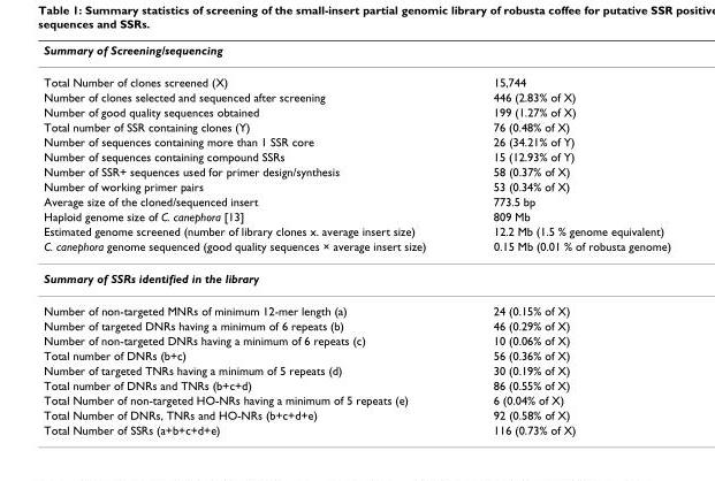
<table><thead><tr><td colspan="2">Summary of Screening/sequencing</td></tr><tr><td>Total Number of clones screened (X)</td><td>15,744</td></tr></thead><tbody><tr><td>Number of clones selected and sequenced after screening</td><td>446 (2.83% of X)</td></tr><tr><td>Number of good quality sequences obtained</td><td>199 (1.27% of X)</td></tr><tr><td>Total number of SSR containing clones (Y)</td><td>76 (0.48% of X)</td></tr><tr><td>Number of sequences containing more than 1 SSR core</td><td>26 (34.21% of Y)</td></tr><tr><td>Number of sequences containing compound SSRs</td><td>15 (12.93% of Y)</td></tr><tr><td>Number of SSR+ sequences used for primer design/synthesis</td><td>58 (0.37% of X)</td></tr><tr><td>Number of working primer pairs</td><td>53 (0.34% of X)</td></tr><tr><td>Average size of the cloned/sequenced insert</td><td>773.5 bp</td></tr><tr><td>Haploid genome size of C. canephora [13]</td><td>809 Mb</td></tr><tr><td>Estimated genome screened (number of library clones x. average insert size)</td><td>12.2 Mb (1.5 % genome equivalent)</td></tr><tr><td>C. canephora genome sequenced (good quality sequences × average insert size)</td><td>0.15 Mb (0.01 % of robusta genome)</td></tr><tr><td colspan="2">Summary of SSRs identified in the library</td></tr><tr><td>Number of non-targeted MNRs of minimum 12-mer length (a)</td><td>24 (0.15% of X)</td></tr><tr><td>Number of targeted DNRs having a minimum of 6 repeats (b)</td><td>46 (0.29% of X)</td></tr><tr><td>Number of non-targeted DNRs having a minimum of 6 repeats (c)</td><td>10 (0.06% of X)</td></tr><tr><td>Total number of DNRs (b+c)</td><td>56 (0.36% of X)</td></tr><tr><td>Number of targeted TNRs having a minimum of 5 repeats (d)</td><td>30 (0.19% of X)</td></tr><tr><td>Total number of DNRs and TNRs (b+c+d)</td><td>86 (0.55% of X)</td></tr><tr><td>Total Number of non-targeted HO-NRs having a minimum of 5 repeats (e)</td><td>6 (0.04% of X)</td></tr><tr><td>Total Number of DNRs, TNRs and HO-NRs (b+c+d+e)</td><td>92 (0.58% of X)</td></tr><tr><td>Total Number of SSRs (a+b+c+d+e)</td><td>116 (0.73% of X)</td></tr></tbody></table>